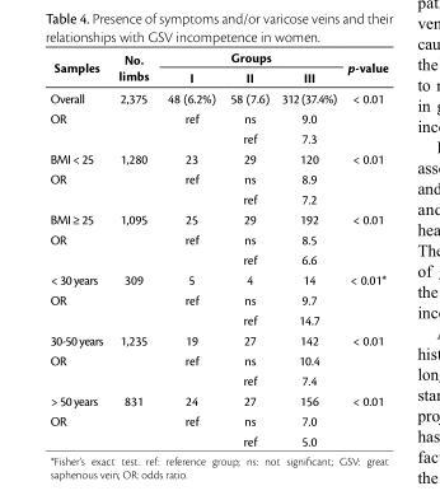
<table><thead><tr><td rowspan="2">Samples</td><td rowspan="2">No. limbs</td><td colspan="3">Groups</td><td rowspan="2">p-value</td></tr><tr><td>I</td><td>II</td><td>III</td></tr></thead><tbody><tr><td>Overall</td><td>2,375</td><td>48 (6.2%)</td><td>58 (7.6)</td><td>312 (37.4%)</td><td>&lt; 0.01</td></tr><tr><td rowspan="2">OR</td><td></td><td>ref</td><td>ns</td><td>9.0</td><td></td></tr><tr><td></td><td></td><td>ref</td><td>7.3</td><td></td></tr><tr><td>BMI &lt; 25</td><td>1,280</td><td>23</td><td>29</td><td>120</td><td>&lt; 0.01</td></tr><tr><td rowspan="2">OR</td><td></td><td>ref</td><td>ns</td><td>8.9</td><td></td></tr><tr><td></td><td></td><td>ref</td><td>7.2</td><td></td></tr><tr><td>BMI ≥ 25</td><td>1,095</td><td>25</td><td>29</td><td>192</td><td>&lt; 0.01</td></tr><tr><td rowspan="2">OR</td><td></td><td>ref</td><td>ns</td><td>8.5</td><td></td></tr><tr><td></td><td></td><td>ref</td><td>6.6</td><td></td></tr><tr><td>&lt; 30 years</td><td>309</td><td>5</td><td>4</td><td>14</td><td>&lt; 0.01*</td></tr><tr><td rowspan="2">OR</td><td></td><td>ref</td><td>ns</td><td>9.7</td><td></td></tr><tr><td></td><td></td><td>ref</td><td>14.7</td><td></td></tr><tr><td>30-50 years</td><td>1,235</td><td>19</td><td>27</td><td>142</td><td>&lt; 0.01</td></tr><tr><td rowspan="2">OR</td><td></td><td>ref</td><td>ns</td><td>10.4</td><td></td></tr><tr><td></td><td></td><td>ref</td><td>7.4</td><td></td></tr><tr><td>&gt; 50 years</td><td>831</td><td>24</td><td>27</td><td>156</td><td>&lt; 0.01</td></tr><tr><td rowspan="2">OR</td><td></td><td>ref</td><td>ns</td><td>7.0</td><td></td></tr><tr><td></td><td></td><td>ref</td><td>5.0</td><td></td></tr></tbody></table>